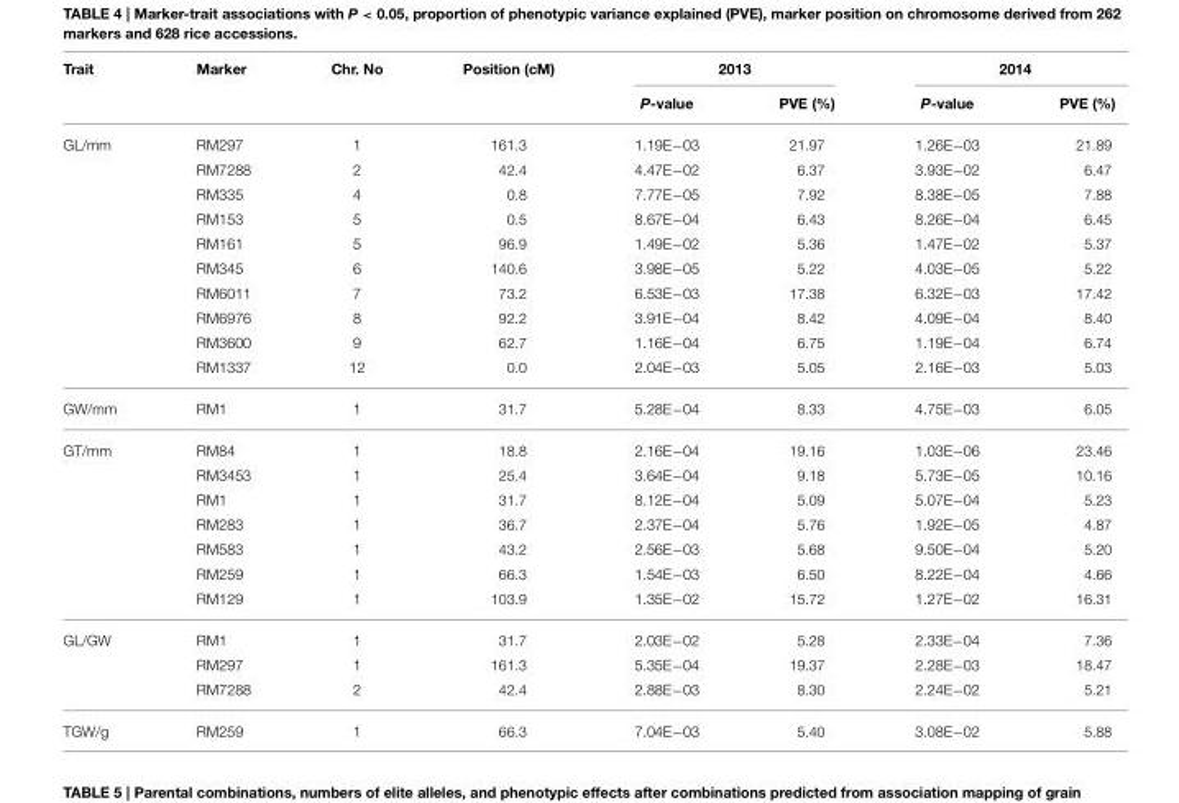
<table><thead><tr><td rowspan="2">Trait</td><td rowspan="2">Marker</td><td rowspan="2">Chr. No</td><td rowspan="2">Position (cM)</td><td colspan="2">2013</td><td colspan="2">2014</td></tr><tr><td>P-value</td><td>PVE (%)</td><td>P-value</td><td>PVE (%)</td></tr></thead><tbody><tr><td rowspan="10">GL/mm</td><td>RM297</td><td>1</td><td>161.3</td><td>1.19E−03</td><td>21.97</td><td>1.26E−03</td><td>21.89</td></tr><tr><td>RM7288</td><td>2</td><td>42.4</td><td>4.47E−02</td><td>6.37</td><td>3.93E−02</td><td>6.47</td></tr><tr><td>RM335</td><td>4</td><td>0.8</td><td>7.77E−05</td><td>7.92</td><td>8.38E−05</td><td>7.88</td></tr><tr><td>RM153</td><td>5</td><td>0.5</td><td>8.67E−04</td><td>6.43</td><td>8.26E−04</td><td>6.45</td></tr><tr><td>RM161</td><td>5</td><td>96.9</td><td>1.49E−02</td><td>5.36</td><td>1.47E−02</td><td>5.37</td></tr><tr><td>RM345</td><td>6</td><td>140.6</td><td>3.98E−05</td><td>5.22</td><td>4.03E−05</td><td>5.22</td></tr><tr><td>RM6011</td><td>7</td><td>73.2</td><td>6.53E−03</td><td>17.38</td><td>6.32E−03</td><td>17.42</td></tr><tr><td>RM6976</td><td>8</td><td>92.2</td><td>3.91E−04</td><td>8.42</td><td>4.09E−04</td><td>8.40</td></tr><tr><td>RM3600</td><td>9</td><td>62.7</td><td>1.16E−04</td><td>6.75</td><td>1.19E−04</td><td>6.74</td></tr><tr><td>RM1337</td><td>12</td><td>0.0</td><td>2.04E−03</td><td>5.05</td><td>2.16E−03</td><td>5.03</td></tr><tr><td>GW/mm</td><td>RM1</td><td>1</td><td>31.7</td><td>5.28E−04</td><td>8.33</td><td>4.75E−03</td><td>6.05</td></tr><tr><td rowspan="7">GT/mm</td><td>RM84</td><td>1</td><td>18.8</td><td>2.16E−04</td><td>19.16</td><td>1.03E−06</td><td>23.46</td></tr><tr><td>RM3453</td><td>1</td><td>25.4</td><td>3.64E−04</td><td>9.18</td><td>5.73E−05</td><td>10.16</td></tr><tr><td>RM1</td><td>1</td><td>31.7</td><td>8.12E−04</td><td>5.09</td><td>5.07E−04</td><td>5.23</td></tr><tr><td>RM283</td><td>1</td><td>36.7</td><td>2.37E−04</td><td>5.76</td><td>1.92E−05</td><td>4.87</td></tr><tr><td>RM583</td><td>1</td><td>43.2</td><td>2.56E−03</td><td>5.68</td><td>9.50E−04</td><td>5.20</td></tr><tr><td>RM259</td><td>1</td><td>66.3</td><td>1.54E−03</td><td>6.50</td><td>8.22E−04</td><td>4.66</td></tr><tr><td>RM129</td><td>1</td><td>103.9</td><td>1.35E−02</td><td>15.72</td><td>1.27E−02</td><td>16.31</td></tr><tr><td rowspan="3">GL/GW</td><td>RM1</td><td>1</td><td>31.7</td><td>2.03E−02</td><td>5.28</td><td>2.33E−04</td><td>7.36</td></tr><tr><td>RM297</td><td>1</td><td>161.3</td><td>5.35E−04</td><td>19.37</td><td>2.28E−03</td><td>18.47</td></tr><tr><td>RM7288</td><td>2</td><td>42.4</td><td>2.88E−03</td><td>8.30</td><td>2.24E−02</td><td>5.21</td></tr><tr><td>TGW/g</td><td>RM259</td><td>1</td><td>66.3</td><td>7.04E−03</td><td>5.40</td><td>3.08E−02</td><td>5.88</td></tr></tbody></table>